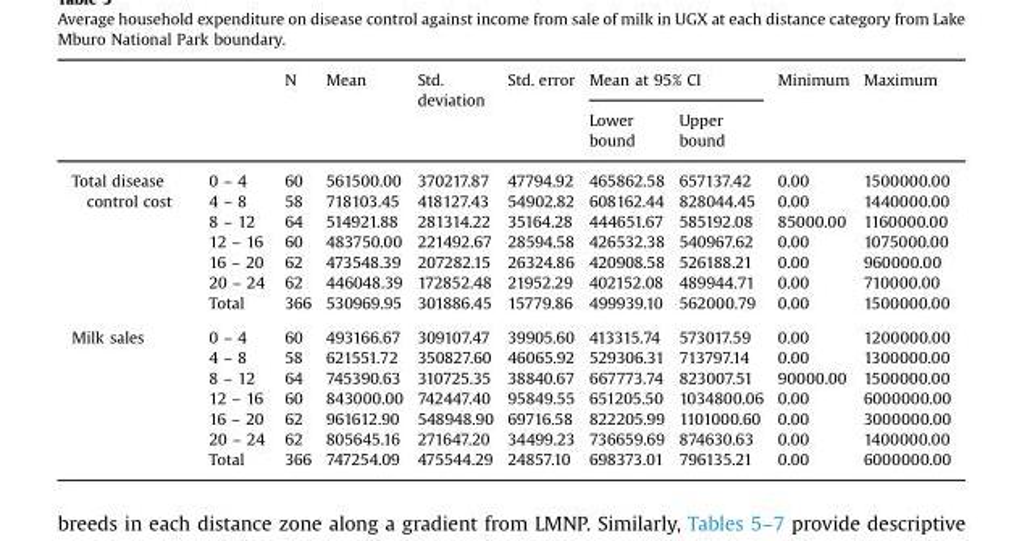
<table><thead><tr><td rowspan="2"></td><td rowspan="2"></td><td rowspan="2">N</td><td rowspan="2">Mean</td><td rowspan="2">Std. deviation</td><td rowspan="2">Std. error</td><td colspan="2">Mean at 95% CI</td><td rowspan="2">Minimum</td><td rowspan="2">Maximum</td></tr><tr><td>Lower bound</td><td>Upper bound</td></tr></thead><tbody><tr><td rowspan="7">Total disease control cost</td><td>0 – 4</td><td>60</td><td>561500.00</td><td>370217.87</td><td>47794.92</td><td>465862.58</td><td>657137.42</td><td>0.00</td><td>1500000.00</td></tr><tr><td>4 – 8</td><td>58</td><td>718103.45</td><td>418127.43</td><td>54902.82</td><td>608162.44</td><td>828044.45</td><td>0.00</td><td>1440000.00</td></tr><tr><td>8 – 12</td><td>64</td><td>514921.88</td><td>281314.22</td><td>35164.28</td><td>444651.67</td><td>585192.08</td><td>85000.00</td><td>1160000.00</td></tr><tr><td>12 – 16</td><td>60</td><td>483750.00</td><td>221492.67</td><td>28594.58</td><td>426532.38</td><td>540967.62</td><td>0.00</td><td>1075000.00</td></tr><tr><td>16 – 20</td><td>62</td><td>473548.39</td><td>207282.15</td><td>26324.86</td><td>420908.58</td><td>526188.21</td><td>0.00</td><td>960000.00</td></tr><tr><td>20 – 24</td><td>62</td><td>446048.39</td><td>172852.48</td><td>21952.29</td><td>402152.08</td><td>489944.71</td><td>0.00</td><td>710000.00</td></tr><tr><td>Total</td><td>366</td><td>530969.95</td><td>301886.45</td><td>15779.86</td><td>499939.10</td><td>562000.79</td><td>0.00</td><td>1500000.00</td></tr><tr><td rowspan="7">Milk sales</td><td>0 – 4</td><td>60</td><td>493166.67</td><td>309107.47</td><td>39905.60</td><td>413315.74</td><td>573017.59</td><td>0.00</td><td>1200000.00</td></tr><tr><td>4 – 8</td><td>58</td><td>621551.72</td><td>350827.60</td><td>46065.92</td><td>529306.31</td><td>713797.14</td><td>0.00</td><td>1300000.00</td></tr><tr><td>8 – 12</td><td>64</td><td>745390.63</td><td>310725.35</td><td>38840.67</td><td>667773.74</td><td>823007.51</td><td>90000.00</td><td>1500000.00</td></tr><tr><td>12 – 16</td><td>60</td><td>843000.00</td><td>742447.40</td><td>95849.55</td><td>651205.50</td><td>1034800.06</td><td>0.00</td><td>6000000.00</td></tr><tr><td>16 – 20</td><td>62</td><td>961612.90</td><td>548948.90</td><td>69716.58</td><td>822205.99</td><td>1101000.60</td><td>0.00</td><td>3000000.00</td></tr><tr><td>20 – 24</td><td>62</td><td>805645.16</td><td>271647.20</td><td>34499.23</td><td>736659.69</td><td>874630.63</td><td>0.00</td><td>1400000.00</td></tr><tr><td>Total</td><td>366</td><td>747254.09</td><td>475544.29</td><td>24857.10</td><td>698373.01</td><td>796135.21</td><td>0.00</td><td>6000000.00</td></tr></tbody></table>